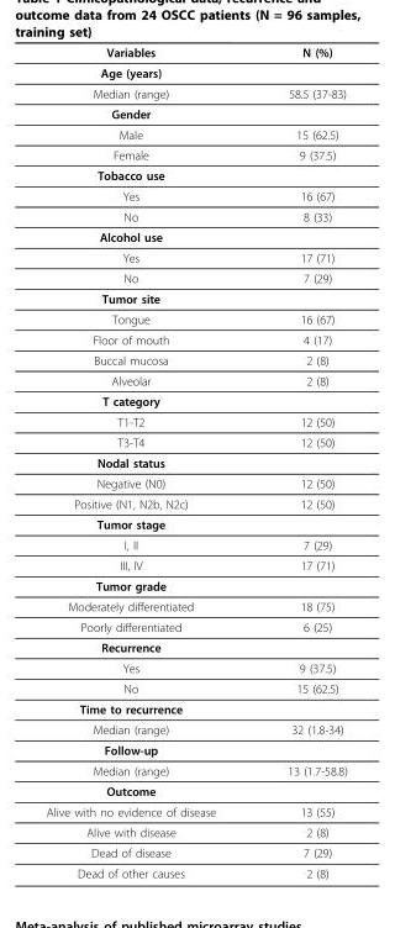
<table><thead><tr><td>Variables</td><td>N (%)</td></tr></thead><tbody><tr><td colspan="2">Age (years)</td></tr><tr><td>Median (range)</td><td>58.5 (37-83)</td></tr><tr><td colspan="2">Gender</td></tr><tr><td>Male</td><td>15 (62.5)</td></tr><tr><td>Female</td><td>9 (37.5)</td></tr><tr><td colspan="2">Tobacco use</td></tr><tr><td>Yes</td><td>16 (67)</td></tr><tr><td>No</td><td>8 (33)</td></tr><tr><td colspan="2">Alcohol use</td></tr><tr><td>Yes</td><td>17 (71)</td></tr><tr><td>No</td><td>7 (29)</td></tr><tr><td colspan="2">Tumor site</td></tr><tr><td>Tongue</td><td>16 (67)</td></tr><tr><td>Floor of mouth</td><td>4 (17)</td></tr><tr><td>Buccal mucosa</td><td>2 (8)</td></tr><tr><td>Alveolar</td><td>2 (8)</td></tr><tr><td colspan="2">T category</td></tr><tr><td>T1-T2</td><td>12 (50)</td></tr><tr><td>T3-T4</td><td>12 (50)</td></tr><tr><td colspan="2">Nodal status</td></tr><tr><td>Negative (N0)</td><td>12 (50)</td></tr><tr><td>Positive (N1, N2b, N2c)</td><td>12 (50)</td></tr><tr><td colspan="2">Tumor stage</td></tr><tr><td>I, II</td><td>7 (29)</td></tr><tr><td>III, IV</td><td>17 (71)</td></tr><tr><td colspan="2">Tumor grade</td></tr><tr><td>Moderately differentiated</td><td>18 (75)</td></tr><tr><td>Poorly differentiated</td><td>6 (25)</td></tr><tr><td colspan="2">Recurrence</td></tr><tr><td>Yes</td><td>9 (37.5)</td></tr><tr><td>No</td><td>15 (62.5)</td></tr><tr><td colspan="2">Time to recurrence</td></tr><tr><td>Median (range)</td><td>32 (1.8-34)</td></tr><tr><td colspan="2">Follow-up</td></tr><tr><td>Median (range)</td><td>13 (1.7-58.8)</td></tr><tr><td colspan="2">Outcome</td></tr><tr><td>Alive with no evidence of disease</td><td>13 (55)</td></tr><tr><td>Alive with disease</td><td>2 (8)</td></tr><tr><td>Dead of disease</td><td>7 (29)</td></tr><tr><td>Dead of other causes</td><td>2 (8)</td></tr></tbody></table>